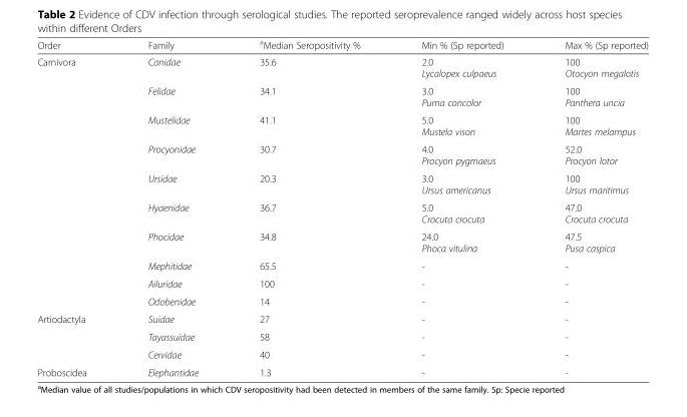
<table><thead><tr><td>Order</td><td>Family</td><td><sup>a</sup>Median Seropositivity %</td><td>Min % (Sp reported)</td><td>Max % (Sp reported)</td></tr></thead><tbody><tr><td rowspan="10">Carnivora</td><td>Canidae</td><td>35.6</td><td>2.0 Lycalopex culpaeus</td><td>100 Otocyon megalotis</td></tr><tr><td>Felidae</td><td>34.1</td><td>3.0 Puma concolor</td><td>100 Panthera uncia</td></tr><tr><td>Mustelidae</td><td>41.1</td><td>5.0 Mustela vison</td><td>100 Martes melampus</td></tr><tr><td>Procyonidae</td><td>30.7</td><td>4.0 Procyon pygmaeus</td><td>52.0 Procyon lotor</td></tr><tr><td>Ursidae</td><td>20.3</td><td>3.0 Ursus americanus</td><td>100 Ursus maritimus</td></tr><tr><td>Hyaenidae</td><td>36.7</td><td>5.0 Crocuta crocuta</td><td>47.0 Crocuta crocuta</td></tr><tr><td>Phocidae</td><td>34.8</td><td>24.0 Phoca vitulina</td><td>47.5 Pusa caspica</td></tr><tr><td>Mephitidae</td><td>65.5</td><td>-</td><td>-</td></tr><tr><td>Ailuridae</td><td>100</td><td>-</td><td>-</td></tr><tr><td>Odobenidae</td><td>14</td><td>-</td><td>-</td></tr><tr><td rowspan="3">Artiodactyla</td><td>Suidae</td><td>27</td><td>-</td><td>-</td></tr><tr><td>Tayassuidae</td><td>58</td><td>-</td><td>-</td></tr><tr><td>Cervidae</td><td>40</td><td>-</td><td>-</td></tr><tr><td>Proboscidea</td><td>Elephantidae</td><td>1.3</td><td>-</td><td>-</td></tr></tbody></table>